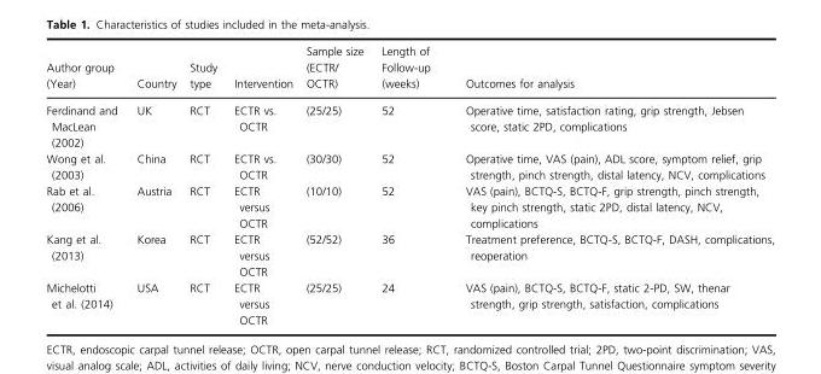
<table><thead><tr><td>Author group (Year)</td><td>Country</td><td>Study type</td><td>Intervention</td><td>Sample size (ECTR/ OCTR)</td><td>Length of Follow-up (weeks)</td><td>Outcomes for analysis</td></tr></thead><tbody><tr><td>Ferdinand and MacLean (2002)</td><td>UK</td><td>RCT</td><td>ECTR vs. OCTR</td><td>(25/25)</td><td>52</td><td>Operative time, satisfaction rating, grip strength, Jebsen score, static 2PD, complications</td></tr><tr><td>Wong et al. (2003)</td><td>China</td><td>RCT</td><td>ECTR vs. OCTR</td><td>(30/30)</td><td>52</td><td>Operative time, VAS (pain), ADL score, symptom relief, grip strength, pinch strength, distal latency, NCV, complications</td></tr><tr><td>Rab et al. (2006)</td><td>Austria</td><td>RCT</td><td>ECTR versus OCTR</td><td>(10/10)</td><td>52</td><td>VAS (pain), BCTQ-S, BCTQ-F, grip strength, pinch strength, key pinch strength, static 2PD, distal latency, NCV, complications</td></tr><tr><td>Kang et al. (2013)</td><td>Korea</td><td>RCT</td><td>ECTR versus OCTR</td><td>(52/52)</td><td>36</td><td>Treatment preference, BCTQ-S, BCTQ-F, DASH, complications, reoperation</td></tr><tr><td>Michelotti et al. (2014)</td><td>USA</td><td>RCT</td><td>ECTR versus OCTR</td><td>(25/25)</td><td>24</td><td>VAS (pain), BCTQ-S, BCTQ-F, static 2-PD, SW, thenar strength, grip strength, satisfaction, complications</td></tr></tbody></table>